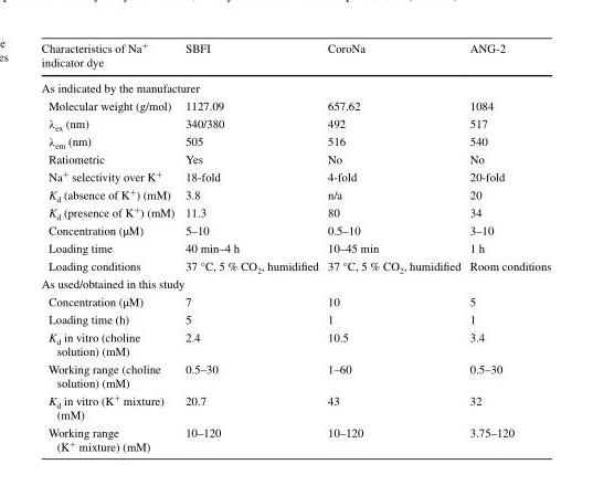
<table><thead><tr><td>Characteristics of Na<sup>+</sup> indicator dye</td><td>SBFI</td><td>CoroNa</td><td>ANG-2</td></tr></thead><tbody><tr><td colspan="4">As indicated by the manufacturer</td></tr><tr><td>Molecular weight (g/mol)</td><td>1127.09</td><td>657.62</td><td>1084</td></tr><tr><td>λ<sub>ex</sub> (nm)</td><td>340/380</td><td>492</td><td>517</td></tr><tr><td>λ<sub>em</sub> (nm)</td><td>505</td><td>516</td><td>540</td></tr><tr><td>Ratiometric</td><td>Yes</td><td>No</td><td>No</td></tr><tr><td>Na<sup>+</sup> selectivity over K<sup>+</sup></td><td>18-fold</td><td>4-fold</td><td>20-fold</td></tr><tr><td>K<sub>d</sub> (absence of K<sup>+</sup>) (mM)</td><td>3.8</td><td>n/a</td><td>20</td></tr><tr><td>K<sub>d</sub> (presence of K<sup>+</sup>) (mM)</td><td>11.3</td><td>80</td><td>34</td></tr><tr><td>Concentration (µM)</td><td>5–10</td><td>0.5–10</td><td>3–10</td></tr><tr><td>Loading time</td><td>40 min–4 h</td><td>10–45 min</td><td>1 h</td></tr><tr><td>Loading conditions</td><td>37 °C, 5 % CO<sub>2</sub>, humidified</td><td>37 °C, 5 % CO<sub>2</sub>, humidified</td><td>Room conditions</td></tr><tr><td colspan="4">As used/obtained in this study</td></tr><tr><td>Concentration (µM)</td><td>7</td><td>10</td><td>5</td></tr><tr><td>Loading time (h)</td><td>5</td><td>1</td><td>1</td></tr><tr><td>K<sub>d</sub> in vitro (choline solution) (mM)</td><td>2.4</td><td>10.5</td><td>3.4</td></tr><tr><td>Working range (choline solution) (mM)</td><td>0.5–30</td><td>1–60</td><td>0.5–30</td></tr><tr><td>K<sub>d</sub> in vitro (K<sup>+</sup> mixture) (mM)</td><td>20.7</td><td>43</td><td>32</td></tr><tr><td>Working range (K<sup>+</sup> mixture) (mM)</td><td>10–120</td><td>10–120</td><td>3.75–120</td></tr></tbody></table>